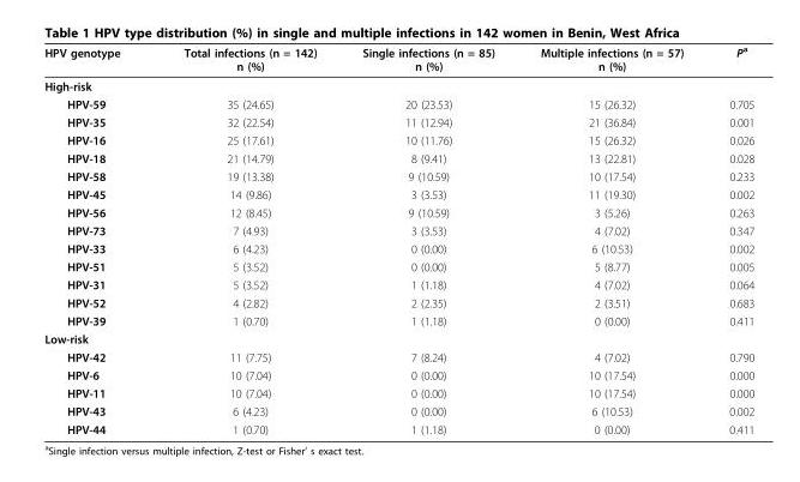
<table><thead><tr><td>HPV genotype</td><td>Total infections (n = 142) n (%)</td><td>Single infections (n = 85) n (%)</td><td>Multiple infections (n = 57) n (%)</td><td>P<sup>a</sup></td></tr></thead><tbody><tr><td colspan="5">High-risk</td></tr><tr><td>HPV-59</td><td>35 (24.65)</td><td>20 (23.53)</td><td>15 (26.32)</td><td>0.705</td></tr><tr><td>HPV-35</td><td>32 (22.54)</td><td>11 (12.94)</td><td>21 (36.84)</td><td>0.001</td></tr><tr><td>HPV-16</td><td>25 (17.61)</td><td>10 (11.76)</td><td>15 (26.32)</td><td>0.026</td></tr><tr><td>HPV-18</td><td>21 (14.79)</td><td>8 (9.41)</td><td>13 (22.81)</td><td>0.028</td></tr><tr><td>HPV-58</td><td>19 (13.38)</td><td>9 (10.59)</td><td>10 (17.54)</td><td>0.233</td></tr><tr><td>HPV-45</td><td>14 (9.86)</td><td>3 (3.53)</td><td>11 (19.30)</td><td>0.002</td></tr><tr><td>HPV-56</td><td>12 (8.45)</td><td>9 (10.59)</td><td>3 (5.26)</td><td>0.263</td></tr><tr><td>HPV-73</td><td>7 (4.93)</td><td>3 (3.53)</td><td>4 (7.02)</td><td>0.347</td></tr><tr><td>HPV-33</td><td>6 (4.23)</td><td>0 (0.00)</td><td>6 (10.53)</td><td>0.002</td></tr><tr><td>HPV-51</td><td>5 (3.52)</td><td>0 (0.00)</td><td>5 (8.77)</td><td>0.005</td></tr><tr><td>HPV-31</td><td>5 (3.52)</td><td>1 (1.18)</td><td>4 (7.02)</td><td>0.064</td></tr><tr><td>HPV-52</td><td>4 (2.82)</td><td>2 (2.35)</td><td>2 (3.51)</td><td>0.683</td></tr><tr><td>HPV-39</td><td>1 (0.70)</td><td>1 (1.18)</td><td>0 (0.00)</td><td>0.411</td></tr><tr><td colspan="5">Low-risk</td></tr><tr><td>HPV-42</td><td>11 (7.75)</td><td>7 (8.24)</td><td>4 (7.02)</td><td>0.790</td></tr><tr><td>HPV-6</td><td>10 (7.04)</td><td>0 (0.00)</td><td>10 (17.54)</td><td>0.000</td></tr><tr><td>HPV-11</td><td>10 (7.04)</td><td>0 (0.00)</td><td>10 (17.54)</td><td>0.000</td></tr><tr><td>HPV-43</td><td>6 (4.23)</td><td>0 (0.00)</td><td>6 (10.53)</td><td>0.002</td></tr><tr><td>HPV-44</td><td>1 (0.70)</td><td>1 (1.18)</td><td>0 (0.00)</td><td>0.411</td></tr></tbody></table>